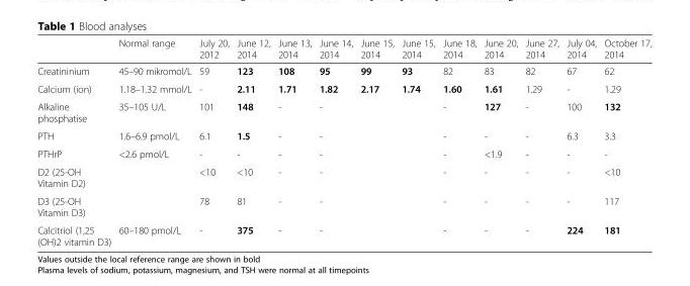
<table><thead><tr><td></td><td>Normal range</td><td>July 20, 2012</td><td>June 12, 2014</td><td>June 13, 2014</td><td>June 14, 2014</td><td>June 15, 2014</td><td>June 15, 2014</td><td>June 18, 2014</td><td>June 20, 2014</td><td>June 27, 2014</td><td>July 04, 2014</td><td>October 17, 2014</td></tr></thead><tbody><tr><td>Creatininium</td><td>45–90 mikromol/L</td><td>59</td><td>123</td><td>108</td><td>95</td><td>99</td><td>93</td><td>82</td><td>83</td><td>82</td><td>67</td><td>62</td></tr><tr><td>Calcium (ion)</td><td>1.18–1.32 mmol/L</td><td>-</td><td>2.11</td><td>1.71</td><td>1.82</td><td>2.17</td><td>1.74</td><td>1.60</td><td>1.61</td><td>1.29</td><td>-</td><td>1.29</td></tr><tr><td>Alkaline phosphatise</td><td>35–105 U/L</td><td>101</td><td>148</td><td>-</td><td>-</td><td></td><td></td><td>-</td><td>127</td><td>-</td><td>100</td><td>132</td></tr><tr><td>PTH</td><td>1.6–6.9 pmol/L</td><td>6.1</td><td>1.5</td><td>-</td><td>-</td><td></td><td></td><td>-</td><td>-</td><td>-</td><td>6.3</td><td>3.3</td></tr><tr><td>PTHrP</td><td>&lt;2.6 pmol/L</td><td>-</td><td>-</td><td>-</td><td>-</td><td></td><td></td><td>-</td><td>&lt;1.9</td><td>-</td><td>-</td><td>-</td></tr><tr><td>D2 (25-OH Vitamin D2)</td><td></td><td>&lt;10</td><td>&lt;10</td><td>-</td><td>-</td><td></td><td></td><td>-</td><td>-</td><td>-</td><td>-</td><td>&lt;10</td></tr><tr><td>D3 (25-OH Vitamin D3)</td><td></td><td>78</td><td>81</td><td>-</td><td>-</td><td></td><td></td><td>-</td><td>-</td><td>-</td><td>-</td><td>117</td></tr><tr><td>Calcitriol (1,25 (OH)2 vitamin D3)</td><td>60–180 pmol/L</td><td>-</td><td>375</td><td>-</td><td>-</td><td></td><td></td><td>-</td><td>-</td><td>-</td><td>224</td><td>181</td></tr></tbody></table>